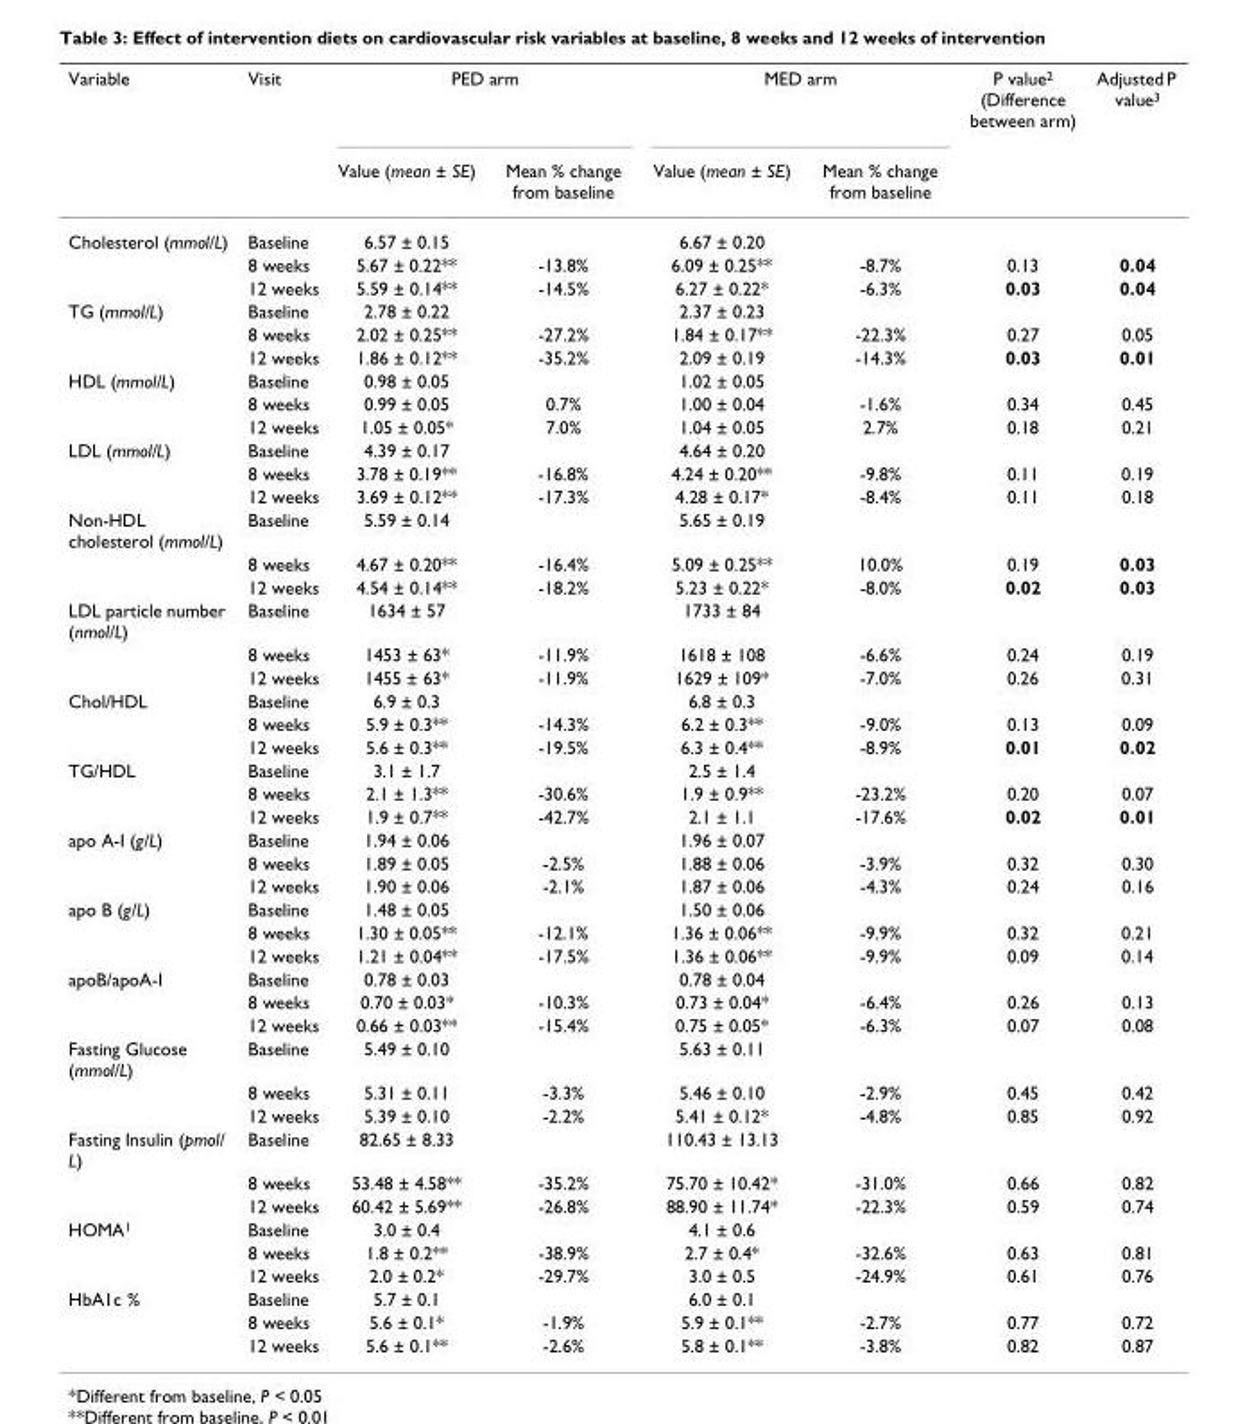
<table><thead><tr><td rowspan="2">Variable</td><td rowspan="2">Visit</td><td colspan="2">PED arm</td><td colspan="2">MED arm</td><td rowspan="2">P value<sup>2</sup> (Difference between arm)</td><td rowspan="2">Adjusted P value<sup>3</sup></td></tr><tr><td>Value (mean ± SE)</td><td>Mean % change from baseline</td><td>Value (mean ± SE)</td><td>Mean % change from baseline</td></tr></thead><tbody><tr><td rowspan="3">Cholesterol (mmol/L)</td><td>Baseline</td><td>6.57 ± 0.15</td><td></td><td>6.67 ± 0.20</td><td></td><td></td><td></td></tr><tr><td>8 weeks</td><td>5.67 ± 0.22**</td><td>-13.8%</td><td>6.09 ± 0.25**</td><td>-8.7%</td><td>0.13</td><td>0.04</td></tr><tr><td>12 weeks</td><td>5.59 ± 0.14**</td><td>-14.5%</td><td>6.27 ± 0.22*</td><td>-6.3%</td><td>0.03</td><td>0.04</td></tr><tr><td rowspan="3">TG (mmol/L)</td><td>Baseline</td><td>2.78 ± 0.22</td><td></td><td>2.37 ± 0.23</td><td></td><td></td><td></td></tr><tr><td>8 weeks</td><td>2.02 ± 0.25**</td><td>-27.2%</td><td>1.84 ± 0.17**</td><td>-22.3%</td><td>0.27</td><td>0.05</td></tr><tr><td>12 weeks</td><td>1.86 ± 0.12**</td><td>-35.2%</td><td>2.09 ± 0.19</td><td>-14.3%</td><td>0.03</td><td>0.01</td></tr><tr><td rowspan="3">HDL (mmol/L)</td><td>Baseline</td><td>0.98 ± 0.05</td><td></td><td>1.02 ± 0.05</td><td></td><td></td><td></td></tr><tr><td>8 weeks</td><td>0.99 ± 0.05</td><td>0.7%</td><td>1.00 ± 0.04</td><td>-1.6%</td><td>0.34</td><td>0.45</td></tr><tr><td>12 weeks</td><td>1.05 ± 0.05*</td><td>7.0%</td><td>1.04 ± 0.05</td><td>2.7%</td><td>0.18</td><td>0.21</td></tr><tr><td rowspan="3">LDL (mmol/L)</td><td>Baseline</td><td>4.39 ± 0.17</td><td></td><td>4.64 ± 0.20</td><td></td><td></td><td></td></tr><tr><td>8 weeks</td><td>3.78 ± 0.19**</td><td>-16.8%</td><td>4.24 ± 0.20**</td><td>-9.8%</td><td>0.11</td><td>0.19</td></tr><tr><td>12 weeks</td><td>3.69 ± 0.12**</td><td>-17.3%</td><td>4.28 ± 0.17*</td><td>-8.4%</td><td>0.11</td><td>0.18</td></tr><tr><td rowspan="3">Non-HDL cholesterol (mmol/L)</td><td>Baseline</td><td>5.59 ± 0.14</td><td></td><td>5.65 ± 0.19</td><td></td><td></td><td></td></tr><tr><td>8 weeks</td><td>4.67 ± 0.20**</td><td>-16.4%</td><td>5.09 ± 0.25**</td><td>10.0%</td><td>0.19</td><td>0.03</td></tr><tr><td>12 weeks</td><td>4.54 ± 0.14**</td><td>-18.2%</td><td>5.23 ± 0.22*</td><td>-8.0%</td><td>0.02</td><td>0.03</td></tr><tr><td rowspan="3">LDL particle number (nmol/L)</td><td>Baseline</td><td>1634 ± 57</td><td></td><td>1733 ± 84</td><td></td><td></td><td></td></tr><tr><td>8 weeks</td><td>1453 ± 63*</td><td>-11.9%</td><td>1618 ± 108</td><td>-6.6%</td><td>0.24</td><td>0.19</td></tr><tr><td>12 weeks</td><td>1455 ± 63*</td><td>-11.9%</td><td>1629 ± 109*</td><td>-7.0%</td><td>0.26</td><td>0.31</td></tr><tr><td rowspan="3">Chol/HDL</td><td>Baseline</td><td>6.9 ± 0.3</td><td></td><td>6.8 ± 0.3</td><td></td><td></td><td></td></tr><tr><td>8 weeks</td><td>5.9 ± 0.3**</td><td>-14.3%</td><td>6.2 ± 0.3**</td><td>-9.0%</td><td>0.13</td><td>0.09</td></tr><tr><td>12 weeks</td><td>5.6 ± 0.3**</td><td>-19.5%</td><td>6.3 ± 0.4**</td><td>-8.9%</td><td>0.01</td><td>0.02</td></tr><tr><td rowspan="3">TG/HDL</td><td>Baseline</td><td>3.1 ± 1.7</td><td></td><td>2.5 ± 1.4</td><td></td><td></td><td></td></tr><tr><td>8 weeks</td><td>2.1 ± 1.3**</td><td>-30.6%</td><td>1.9 ± 0.9**</td><td>-23.2%</td><td>0.20</td><td>0.07</td></tr><tr><td>12 weeks</td><td>1.9 ± 0.7**</td><td>-42.7%</td><td>2.1 ± 1.1</td><td>-17.6%</td><td>0.02</td><td>0.01</td></tr><tr><td rowspan="3">apo A-I (g/L)</td><td>Baseline</td><td>1.94 ± 0.06</td><td></td><td>1.96 ± 0.07</td><td></td><td></td><td></td></tr><tr><td>8 weeks</td><td>1.89 ± 0.05</td><td>-2.5%</td><td>1.88 ± 0.06</td><td>-3.9%</td><td>0.32</td><td>0.30</td></tr><tr><td>12 weeks</td><td>1.90 ± 0.06</td><td>-2.1%</td><td>1.87 ± 0.06</td><td>-4.3%</td><td>0.24</td><td>0.16</td></tr><tr><td rowspan="3">apo B (g/L)</td><td>Baseline</td><td>1.48 ± 0.05</td><td></td><td>1.50 ± 0.06</td><td></td><td></td><td></td></tr><tr><td>8 weeks</td><td>1.30 ± 0.05**</td><td>-12.1%</td><td>1.36 ± 0.06**</td><td>-9.9%</td><td>0.32</td><td>0.21</td></tr><tr><td>12 weeks</td><td>1.21 ± 0.04**</td><td>-17.5%</td><td>1.36 ± 0.06**</td><td>-9.9%</td><td>0.09</td><td>0.14</td></tr><tr><td rowspan="3">apoB/apoA-I</td><td>Baseline</td><td>0.78 ± 0.03</td><td></td><td>0.78 ± 0.04</td><td></td><td></td><td></td></tr><tr><td>8 weeks</td><td>0.70 ± 0.03*</td><td>-10.3%</td><td>0.73 ± 0.04*</td><td>-6.4%</td><td>0.26</td><td>0.13</td></tr><tr><td>12 weeks</td><td>0.66 ± 0.03**</td><td>-15.4%</td><td>0.75 ± 0.05*</td><td>-6.3%</td><td>0.07</td><td>0.08</td></tr><tr><td rowspan="3">Fasting Glucose (mmol/L)</td><td>Baseline</td><td>5.49 ± 0.10</td><td></td><td>5.63 ± 0.11</td><td></td><td></td><td></td></tr><tr><td>8 weeks</td><td>5.31 ± 0.11</td><td>-3.3%</td><td>5.46 ± 0.10</td><td>-2.9%</td><td>0.45</td><td>0.42</td></tr><tr><td>12 weeks</td><td>5.39 ± 0.10</td><td>-2.2%</td><td>5.41 ± 0.12*</td><td>-4.8%</td><td>0.85</td><td>0.92</td></tr><tr><td rowspan="3">Fasting Insulin (pmol/ L)</td><td>Baseline</td><td>82.65 ± 8.33</td><td></td><td>110.43 ± 13.13</td><td></td><td></td><td></td></tr><tr><td>8 weeks</td><td>53.48 ± 4.58**</td><td>-35.2%</td><td>75.70 ± 10.42*</td><td>-31.0%</td><td>0.66</td><td>0.82</td></tr><tr><td>12 weeks</td><td>60.42 ± 5.69**</td><td>-26.8%</td><td>88.90 ± 11.74*</td><td>-22.3%</td><td>0.59</td><td>0.74</td></tr><tr><td rowspan="3">HOMA<sup>1</sup></td><td>Baseline</td><td>3.0 ± 0.4</td><td></td><td>4.1 ± 0.6</td><td></td><td></td><td></td></tr><tr><td>8 weeks</td><td>1.8 ± 0.2**</td><td>-38.9%</td><td>2.7 ± 0.4*</td><td>-32.6%</td><td>0.63</td><td>0.81</td></tr><tr><td>12 weeks</td><td>2.0 ± 0.2*</td><td>-29.7%</td><td>3.0 ± 0.5</td><td>-24.9%</td><td>0.61</td><td>0.76</td></tr><tr><td rowspan="3">HbA1c %</td><td>Baseline</td><td>5.7 ± 0.1</td><td></td><td>6.0 ± 0.1</td><td></td><td></td><td></td></tr><tr><td>8 weeks</td><td>5.6 ± 0.1*</td><td>-1.9%</td><td>5.9 ± 0.1**</td><td>-2.7%</td><td>0.77</td><td>0.72</td></tr><tr><td>12 weeks</td><td>5.6 ± 0.1**</td><td>-2.6%</td><td>5.8 ± 0.1**</td><td>-3.8%</td><td>0.82</td><td>0.87</td></tr></tbody></table>